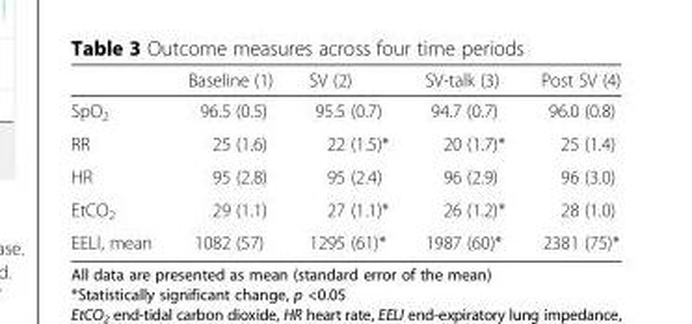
<table><thead><tr><td></td><td>Baseline (1)</td><td>SV (2)</td><td>SV-talk (3)</td><td>Post SV (4)</td></tr></thead><tbody><tr><td>SpO<sub>2</sub></td><td>96.5 (0.5)</td><td>95.5 (0.7)</td><td>94.7 (0.7)</td><td>96.0 (0.8)</td></tr><tr><td>RR</td><td>25 (1.6)</td><td>22 (1.5)*</td><td>20 (1.7)*</td><td>25 (1.4)</td></tr><tr><td>HR</td><td>95 (2.8)</td><td>95 (2.4)</td><td>96 (2.9)</td><td>96 (3.0)</td></tr><tr><td>EtCO<sub>2</sub></td><td>29 (1.1)</td><td>27 (1.1)*</td><td>26 (1.2)*</td><td>28 (1.0)</td></tr><tr><td>EELI, mean</td><td>1082 (57)</td><td>1295 (61)*</td><td>1987 (60)*</td><td>2381 (75)*</td></tr></tbody></table>